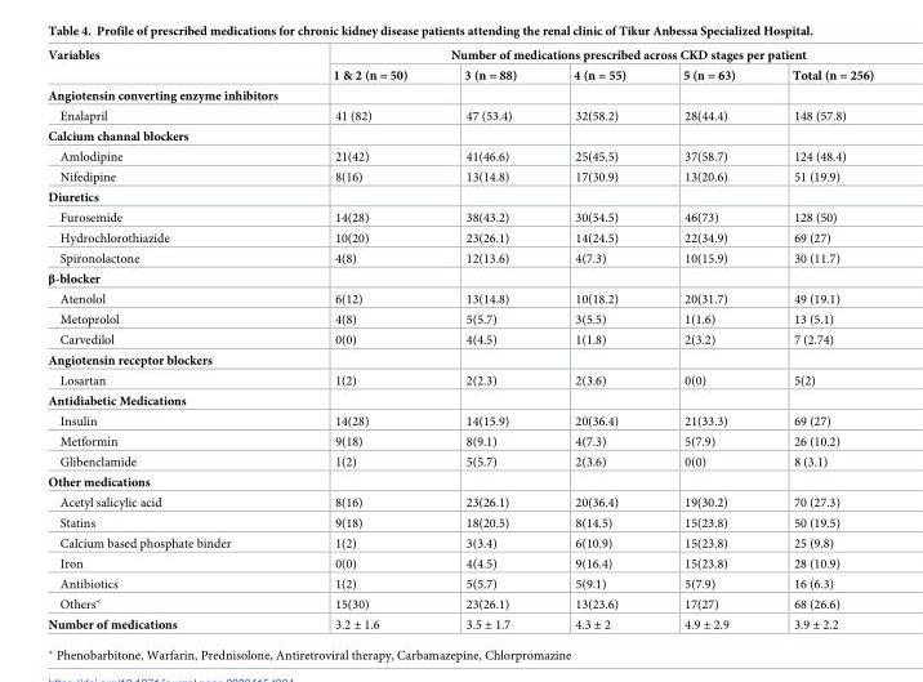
<table><thead><tr><td rowspan="2">Variables</td><td colspan="5">Number of medications prescribed across CKD stages per patient</td></tr><tr><td>1 &amp; 2 (n = 50)</td><td>3 (n = 88)</td><td>4 (n = 55)</td><td>5 (n = 63)</td><td>Total (n = 256)</td></tr></thead><tbody><tr><td colspan="6">Angiotensin converting enzyme inhibitors</td></tr><tr><td>Enalapril</td><td>41 (82)</td><td>47 (53.4)</td><td>32(58.2)</td><td>28(44.4)</td><td>148 (57.8)</td></tr><tr><td colspan="6">Calcium channal blockers</td></tr><tr><td>Amlodipine</td><td>21(42)</td><td>41(46.6)</td><td>25(45.5)</td><td>37(58.7)</td><td>124 (48.4)</td></tr><tr><td>Nifedipine</td><td>8(16)</td><td>13(14.8)</td><td>17(30.9)</td><td>13(20.6)</td><td>51 (19.9)</td></tr><tr><td colspan="6">Diuretics</td></tr><tr><td>Furosemide</td><td>14(28)</td><td>38(43.2)</td><td>30(54.5)</td><td>46(73)</td><td>128 (50)</td></tr><tr><td>Hydrochlorothiazide</td><td>10(20)</td><td>23(26.1)</td><td>14(24.5)</td><td>22(34.9)</td><td>69 (27)</td></tr><tr><td>Spironolactone</td><td>4(8)</td><td>12(13.6)</td><td>4(7.3)</td><td>10(15.9)</td><td>30 (11.7)</td></tr><tr><td colspan="6">β-blocker</td></tr><tr><td>Atenolol</td><td>6(12)</td><td>13(14.8)</td><td>10(18.2)</td><td>20(31.7)</td><td>49 (19.1)</td></tr><tr><td>Metoprolol</td><td>4(8)</td><td>5(5.7)</td><td>3(5.5)</td><td>1(1.6)</td><td>13 (5.1)</td></tr><tr><td>Carvedilol</td><td>0(0)</td><td>4(4.5)</td><td>1(1.8)</td><td>2(3.2)</td><td>7 (2.74)</td></tr><tr><td colspan="6">Angiotensin receptor blockers</td></tr><tr><td>Losartan</td><td>1(2)</td><td>2(2.3)</td><td>2(3.6)</td><td>0(0)</td><td>5(2)</td></tr><tr><td colspan="6">Antidiabetic Medications</td></tr><tr><td>Insulin</td><td>14(28)</td><td>14(15.9)</td><td>20(36.4)</td><td>21(33.3)</td><td>69 (27)</td></tr><tr><td>Metformin</td><td>9(18)</td><td>8(9.1)</td><td>4(7.3)</td><td>5(7.9)</td><td>26 (10.2)</td></tr><tr><td>Glibenclamide</td><td>1(2)</td><td>5(5.7)</td><td>2(3.6)</td><td>0(0)</td><td>8 (3.1)</td></tr><tr><td colspan="6">Other medications</td></tr><tr><td>Acetyl salicylic acid</td><td>8(16)</td><td>23(26.1)</td><td>20(36.4)</td><td>19(30.2)</td><td>70 (27.3)</td></tr><tr><td>Statins</td><td>9(18)</td><td>18(20.5)</td><td>8(14.5)</td><td>15(23.8)</td><td>50 (19.5)</td></tr><tr><td>Calcium based phosphate binder</td><td>1(2)</td><td>3(3.4)</td><td>6(10.9)</td><td>15(23.8)</td><td>25 (9.8)</td></tr><tr><td>Iron</td><td>0(0)</td><td>4(4.5)</td><td>9(16.4)</td><td>15(23.8)</td><td>28 (10.9)</td></tr><tr><td>Antibiotics</td><td>1(2)</td><td>5(5.7)</td><td>5(9.1)</td><td>5(7.9)</td><td>16 (6.3)</td></tr><tr><td>Others*</td><td>15(30)</td><td>23(26.1)</td><td>13(23.6)</td><td>17(27)</td><td>68 (26.6)</td></tr><tr><td>Number of medications</td><td>3.2 ± 1.6</td><td>3.5 ± 1.7</td><td>4.3 ± 2</td><td>4.9 ± 2.9</td><td>3.9 ± 2.2</td></tr></tbody></table>